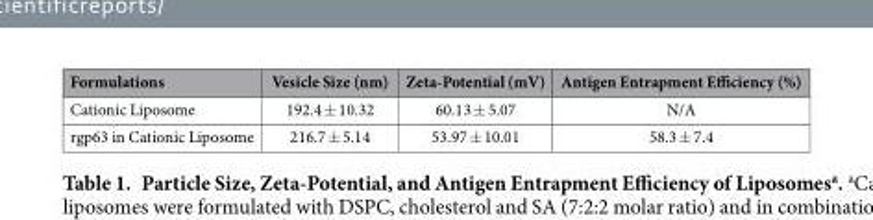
<table><thead><tr><td>Formulations</td><td>Vesicle Size (nm)</td><td>Zeta-Potential (mV)</td><td>Antigen Entrapment Efficiency (%)</td></tr></thead><tbody><tr><td>Cationic Liposome</td><td>192.4 ± 10.32</td><td>60.13 ± 5.07</td><td>N/A</td></tr><tr><td>rgp63 in Cationic Liposome</td><td>216.7 ± 5.14</td><td>53.97 ± 10.01</td><td>58.3 ± 7.4</td></tr></tbody></table>